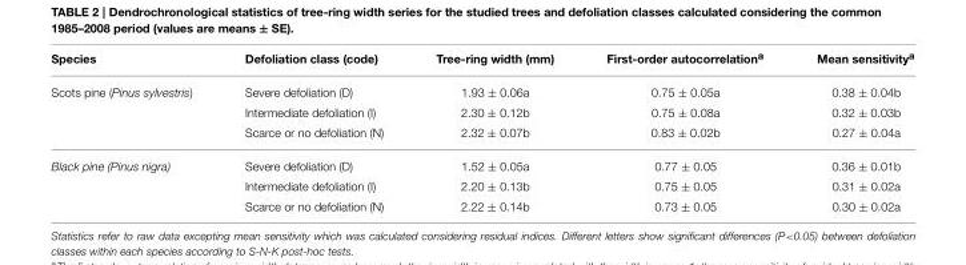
<table><thead><tr><td>Species</td><td>Defoliation class (code)</td><td>Tree-ring width (mm)</td><td>First-order autocorrelation<sup>a</sup></td><td>Mean sensitivity<sup>a</sup></td></tr></thead><tbody><tr><td rowspan="3">Scots pine (Pinus sylvestris)</td><td>Severe defoliation (D)</td><td>1.93 ± 0.06a</td><td>0.75 ± 0.05a</td><td>0.38 ± 0.04b</td></tr><tr><td>Intermediate defoliation (I)</td><td>2.30 ± 0.12b</td><td>0.75 ± 0.08a</td><td>0.32 ± 0.03b</td></tr><tr><td>Scarce or no defoliation (N)</td><td>2.32 ± 0.07b</td><td>0.83 ± 0.02b</td><td>0.27 ± 0.04a</td></tr><tr><td rowspan="3">Black pine (Pinus nigra)</td><td>Severe defoliation (D)</td><td>1.52 ± 0.05a</td><td>0.77 ± 0.05</td><td>0.36 ± 0.01b</td></tr><tr><td>Intermediate defoliation (I)</td><td>2.20 ± 0.13b</td><td>0.75 ± 0.05</td><td>0.31 ± 0.02a</td></tr><tr><td>Scarce or no defoliation (N)</td><td>2.22 ± 0.14b</td><td>0.73 ± 0.05</td><td>0.30 ± 0.02a</td></tr></tbody></table>